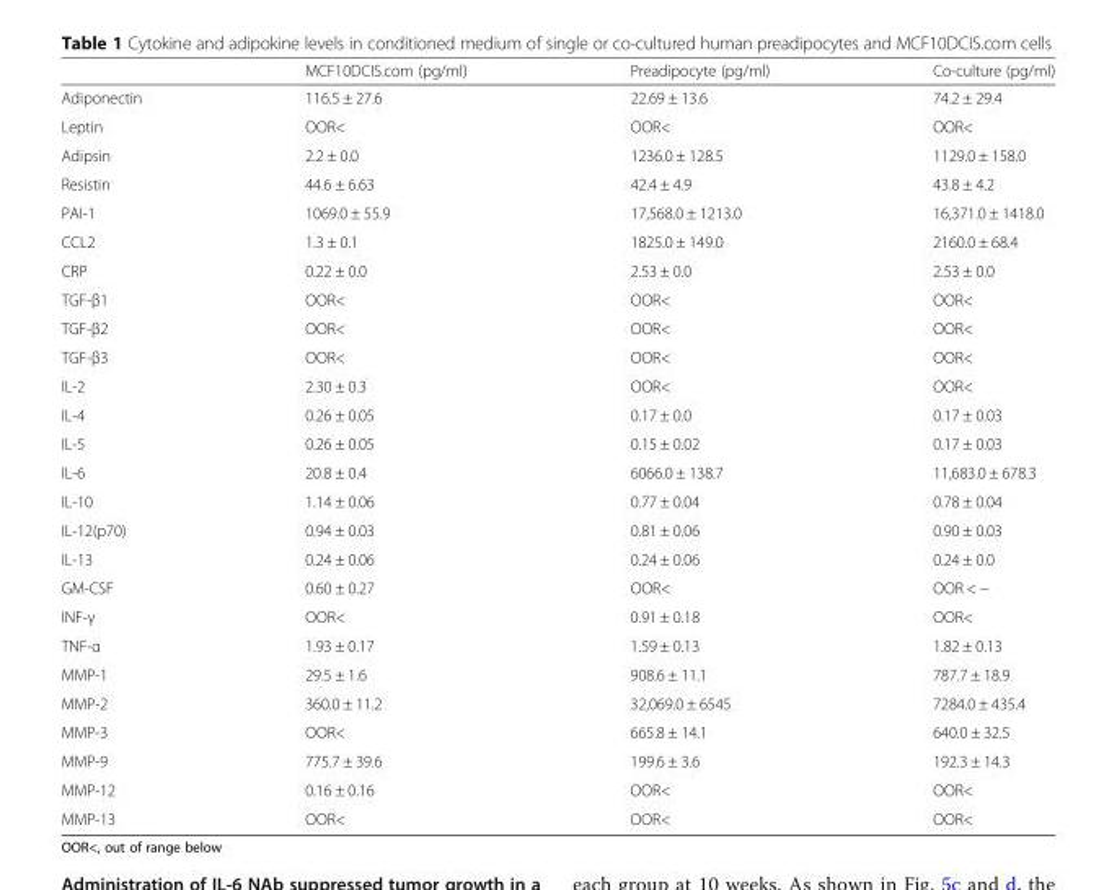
<table><thead><tr><td></td><td>MCF10DCIS.com (pg/ml)</td><td>Preadipocyte (pg/ml)</td><td>Co-culture (pg/ml)</td></tr></thead><tbody><tr><td>Adiponectin</td><td>116.5 ± 27.6</td><td>22.69 ± 13.6</td><td>74.2 ± 29.4</td></tr><tr><td>Leptin</td><td>OOR&lt;</td><td>OOR&lt;</td><td>OOR&lt;</td></tr><tr><td>Adipsin</td><td>2.2 ± 0.0</td><td>1236.0 ± 128.5</td><td>1129.0 ± 158.0</td></tr><tr><td>Resistin</td><td>44.6 ± 6.63</td><td>42.4 ± 4.9</td><td>43.8 ± 4.2</td></tr><tr><td>PAI-1</td><td>1069.0 ± 55.9</td><td>17,568.0 ± 1213.0</td><td>16,371.0 ± 1418.0</td></tr><tr><td>CCL2</td><td>1.3 ± 0.1</td><td>1825.0 ± 149.0</td><td>2160.0 ± 68.4</td></tr><tr><td>CRP</td><td>0.22 ± 0.0</td><td>2.53 ± 0.0</td><td>2.53 ± 0.0</td></tr><tr><td>TGF-β1</td><td>OOR&lt;</td><td>OOR&lt;</td><td>OOR&lt;</td></tr><tr><td>TGF-β2</td><td>OOR&lt;</td><td>OOR&lt;</td><td>OOR&lt;</td></tr><tr><td>TGF-β3</td><td>OOR&lt;</td><td>OOR&lt;</td><td>OOR&lt;</td></tr><tr><td>IL-2</td><td>2.30 ± 0.3</td><td>OOR&lt;</td><td>OOR&lt;</td></tr><tr><td>IL-4</td><td>0.26 ± 0.05</td><td>0.17 ± 0.0</td><td>0.17 ± 0.03</td></tr><tr><td>IL-5</td><td>0.26 ± 0.05</td><td>0.15 ± 0.02</td><td>0.17 ± 0.03</td></tr><tr><td>IL-6</td><td>20.8 ± 0.4</td><td>6066.0 ± 138.7</td><td>11,683.0 ± 678.3</td></tr><tr><td>IL-10</td><td>1.14 ± 0.06</td><td>0.77 ± 0.04</td><td>0.78 ± 0.04</td></tr><tr><td>IL-12(p70)</td><td>0.94 ± 0.03</td><td>0.81 ± 0.06</td><td>0.90 ± 0.03</td></tr><tr><td>IL-13</td><td>0.24 ± 0.06</td><td>0.24 ± 0.06</td><td>0.24 ± 0.0</td></tr><tr><td>GM-CSF</td><td>0.60 ± 0.27</td><td>OOR&lt;</td><td>OOR &lt; −</td></tr><tr><td>INF-γ</td><td>OOR&lt;</td><td>0.91 ± 0.18</td><td>OOR&lt;</td></tr><tr><td>TNF-α</td><td>1.93 ± 0.17</td><td>1.59 ± 0.13</td><td>1.82 ± 0.13</td></tr><tr><td>MMP-1</td><td>29.5 ± 1.6</td><td>908.6 ± 11.1</td><td>787.7 ± 18.9</td></tr><tr><td>MMP-2</td><td>360.0 ± 11.2</td><td>32,069.0 ± 6545</td><td>7284.0 ± 435.4</td></tr><tr><td>MMP-3</td><td>OOR&lt;</td><td>665.8 ± 14.1</td><td>640.0 ± 32.5</td></tr><tr><td>MMP-9</td><td>775.7 ± 39.6</td><td>199.6 ± 3.6</td><td>192.3 ± 14.3</td></tr><tr><td>MMP-12</td><td>0.16 ± 0.16</td><td>OOR&lt;</td><td>OOR&lt;</td></tr><tr><td>MMP-13</td><td>OOR&lt;</td><td>OOR&lt;</td><td>OOR&lt;</td></tr></tbody></table>